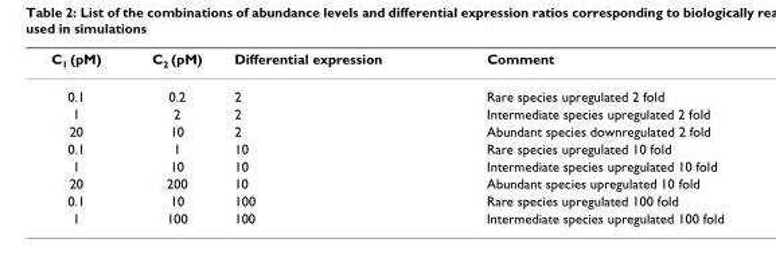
<table><thead><tr><td>C<sub>1</sub> (pM)</td><td>C<sub>2</sub> (pM)</td><td>Differential expression</td><td>Comment</td></tr></thead><tbody><tr><td>0.1</td><td>0.2</td><td>2</td><td>Rare species upregulated 2 fold</td></tr><tr><td>1</td><td>2</td><td>2</td><td>Intermediate species upregulated 2 fold</td></tr><tr><td>20</td><td>10</td><td>2</td><td>Abundant species downregulated 2 fold</td></tr><tr><td>0.1</td><td>1</td><td>10</td><td>Rare species upregulated 10 fold</td></tr><tr><td>1</td><td>10</td><td>10</td><td>Intermediate species upregulated 10 fold</td></tr><tr><td>20</td><td>200</td><td>10</td><td>Abundant species upregulated 10 fold</td></tr><tr><td>0.1</td><td>10</td><td>100</td><td>Rare species upregulated 100 fold</td></tr><tr><td>1</td><td>100</td><td>100</td><td>Intermediate species upregulated 100 fold</td></tr></tbody></table>